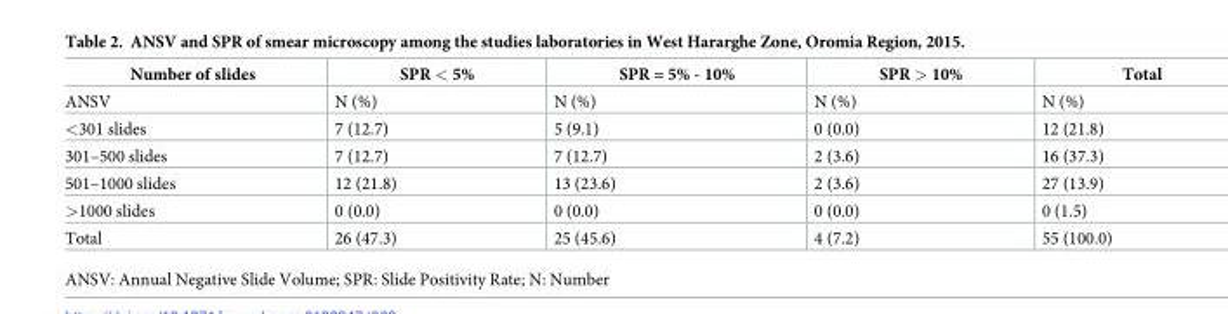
<table><thead><tr><td>Number of slides</td><td>SPR &lt; 5%</td><td>SPR = 5% - 10%</td><td>SPR &gt; 10%</td><td>Total</td></tr></thead><tbody><tr><td>ANSV</td><td>N (%)</td><td>N (%)</td><td>N (%)</td><td>N (%)</td></tr><tr><td>&lt;301 slides</td><td>7 (12.7)</td><td>5 (9.1)</td><td>0 (0.0)</td><td>12 (21.8)</td></tr><tr><td>301–500 slides</td><td>7 (12.7)</td><td>7 (12.7)</td><td>2 (3.6)</td><td>16 (37.3)</td></tr><tr><td>501–1000 slides</td><td>12 (21.8)</td><td>13 (23.6)</td><td>2 (3.6)</td><td>27 (13.9)</td></tr><tr><td>&gt;1000 slides</td><td>0 (0.0)</td><td>0 (0.0)</td><td>0 (0.0)</td><td>0 (1.5)</td></tr><tr><td>Total</td><td>26 (47.3)</td><td>25 (45.6)</td><td>4 (7.2)</td><td>55 (100.0)</td></tr></tbody></table>